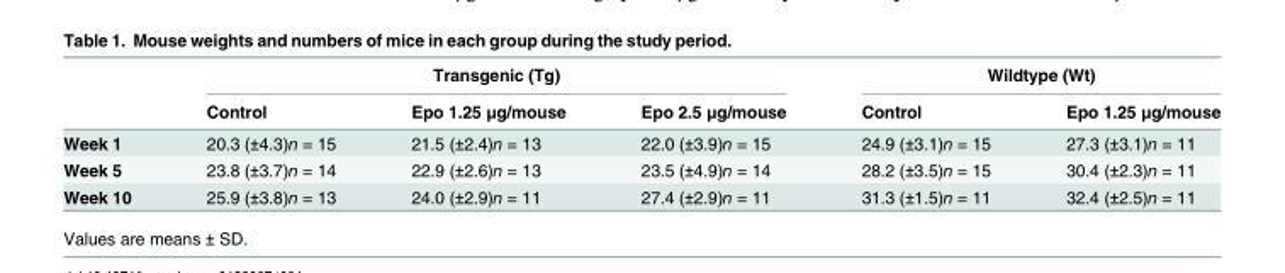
<table><thead><tr><td rowspan="2"></td><td colspan="3">Transgenic (Tg)</td><td colspan="2">Wildtype (Wt)</td></tr><tr><td>Control</td><td>Epo 1.25 μg/mouse</td><td>Epo 2.5 μg/mouse</td><td>Control</td><td>Epo 1.25 μg/mouse</td></tr></thead><tbody><tr><td>Week 1</td><td>20.3 (±4.3)n = 15</td><td>21.5 (±2.4)n = 13</td><td>22.0 (±3.9)n = 15</td><td>24.9 (±3.1)n = 15</td><td>27.3 (±3.1)n = 11</td></tr><tr><td>Week 5</td><td>23.8 (±3.7)n = 14</td><td>22.9 (±2.6)n = 13</td><td>23.5 (±4.9)n = 14</td><td>28.2 (±3.5)n = 15</td><td>30.4 (±2.3)n = 11</td></tr><tr><td>Week 10</td><td>25.9 (±3.8)n = 13</td><td>24.0 (±2.9)n = 11</td><td>27.4 (±2.9)n = 11</td><td>31.3 (±1.5)n = 11</td><td>32.4 (±2.5)n = 11</td></tr></tbody></table>